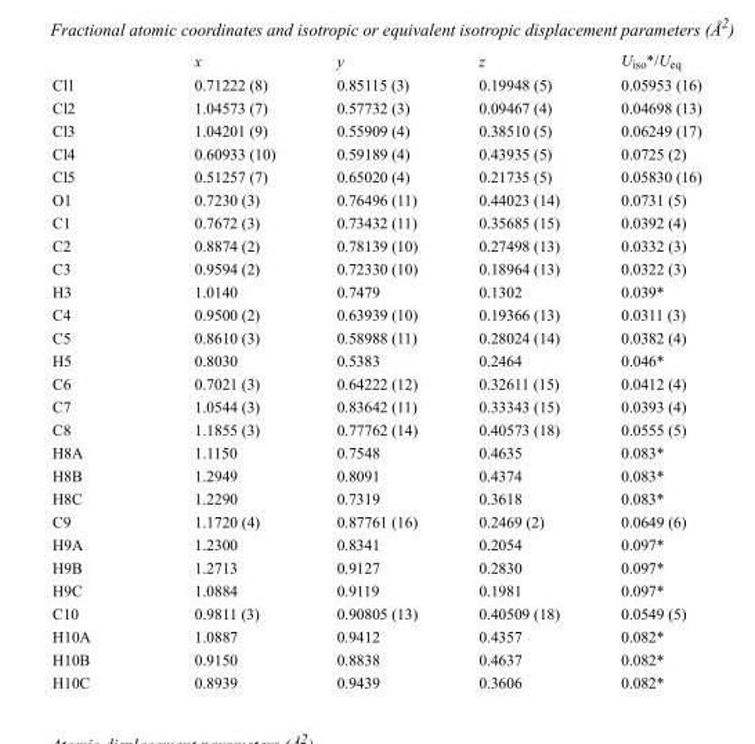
<table><thead><tr><td></td><td>x</td><td>y</td><td>z</td><td>U<sub>iso</sub>*/U<sub>eq</sub></td></tr></thead><tbody><tr><td>Cl1</td><td>0.71222 (8)</td><td>0.85115 (3)</td><td>0.19948 (5)</td><td>0.05953 (16)</td></tr><tr><td>Cl2</td><td>1.04573 (7)</td><td>0.57732 (3)</td><td>0.09467 (4)</td><td>0.04698 (13)</td></tr><tr><td>Cl3</td><td>1.04201 (9)</td><td>0.55909 (4)</td><td>0.38510 (5)</td><td>0.06249 (17)</td></tr><tr><td>Cl4</td><td>0.60933 (10)</td><td>0.59189 (4)</td><td>0.43935 (5)</td><td>0.0725 (2)</td></tr><tr><td>Cl5</td><td>0.51257 (7)</td><td>0.65020 (4)</td><td>0.21735 (5)</td><td>0.05830 (16)</td></tr><tr><td>O1</td><td>0.7230 (3)</td><td>0.76496 (11)</td><td>0.44023 (14)</td><td>0.0731 (5)</td></tr><tr><td>C1</td><td>0.7672 (3)</td><td>0.73432 (11)</td><td>0.35685 (15)</td><td>0.0392 (4)</td></tr><tr><td>C2</td><td>0.8874 (2)</td><td>0.78139 (10)</td><td>0.27498 (13)</td><td>0.0332 (3)</td></tr><tr><td>C3</td><td>0.9594 (2)</td><td>0.72330 (10)</td><td>0.18964 (13)</td><td>0.0322 (3)</td></tr><tr><td>H3</td><td>1.0140</td><td>0.7479</td><td>0.1302</td><td>0.039*</td></tr><tr><td>C4</td><td>0.9500 (2)</td><td>0.63939 (10)</td><td>0.19366 (13)</td><td>0.0311 (3)</td></tr><tr><td>C5</td><td>0.8610 (3)</td><td>0.58988 (11)</td><td>0.28024 (14)</td><td>0.0382 (4)</td></tr><tr><td>H5</td><td>0.8030</td><td>0.5383</td><td>0.2464</td><td>0.046*</td></tr><tr><td>C6</td><td>0.7021 (3)</td><td>0.64222 (12)</td><td>0.32611 (15)</td><td>0.0412 (4)</td></tr><tr><td>C7</td><td>1.0544 (3)</td><td>0.83642 (11)</td><td>0.33343 (15)</td><td>0.0393 (4)</td></tr><tr><td>C8</td><td>1.1855 (3)</td><td>0.77762 (14)</td><td>0.40573 (18)</td><td>0.0555 (5)</td></tr><tr><td>H8A</td><td>1.1150</td><td>0.7548</td><td>0.4635</td><td>0.083*</td></tr><tr><td>H8B</td><td>1.2949</td><td>0.8091</td><td>0.4374</td><td>0.083*</td></tr><tr><td>H8C</td><td>1.2290</td><td>0.7319</td><td>0.3618</td><td>0.083*</td></tr><tr><td>C9</td><td>1.1720 (4)</td><td>0.87761 (16)</td><td>0.2469 (2)</td><td>0.0649 (6)</td></tr><tr><td>H9A</td><td>1.2300</td><td>0.8341</td><td>0.2054</td><td>0.097*</td></tr><tr><td>H9B</td><td>1.2713</td><td>0.9127</td><td>0.2830</td><td>0.097*</td></tr><tr><td>H9C</td><td>1.0884</td><td>0.9119</td><td>0.1981</td><td>0.097*</td></tr><tr><td>C10</td><td>0.9811 (3)</td><td>0.90805 (13)</td><td>0.40509 (18)</td><td>0.0549 (5)</td></tr><tr><td>H10A</td><td>1.0887</td><td>0.9412</td><td>0.4357</td><td>0.082*</td></tr><tr><td>H10B</td><td>0.9150</td><td>0.8838</td><td>0.4637</td><td>0.082*</td></tr><tr><td>H10C</td><td>0.8939</td><td>0.9439</td><td>0.3606</td><td>0.082*</td></tr></tbody></table>